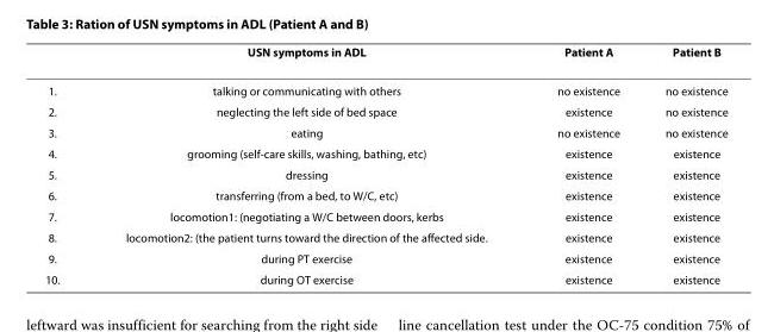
<table><thead><tr><td></td><td>USN symptoms in ADL</td><td>Patient A</td><td>Patient B</td></tr></thead><tbody><tr><td>1.</td><td>talking or communicating with others</td><td>no existence</td><td>no existence</td></tr><tr><td>2.</td><td>neglecting the left side of bed space</td><td>existence</td><td>no existence</td></tr><tr><td>3.</td><td>eating</td><td>no existence</td><td>no existence</td></tr><tr><td>4.</td><td>grooming (self-care skills, washing, bathing, etc)</td><td>existence</td><td>existence</td></tr><tr><td>5.</td><td>dressing</td><td>existence</td><td>existence</td></tr><tr><td>6.</td><td>transferring (from a bed, to W/C, etc)</td><td>existence</td><td>existence</td></tr><tr><td>7.</td><td>locomotion1: (negotiating a W/C between doors, kerbs</td><td>existence</td><td>existence</td></tr><tr><td>8.</td><td>locomotion2: (the patient turns toward the direction of the affected side.</td><td>existence</td><td>existence</td></tr><tr><td>9.</td><td>during PT exercise</td><td>existence</td><td>existence</td></tr><tr><td>10.</td><td>during OT exercise</td><td>existence</td><td>existence</td></tr></tbody></table>